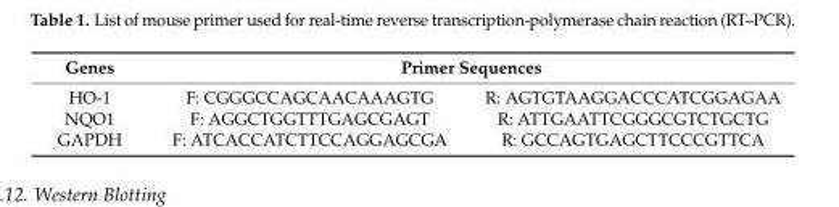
<table><thead><tr><td rowspan="2">Genes HO-1</td><td colspan="2">Primer Sequences</td></tr><tr><td>F: CGGGCCAGCAACAAAGTG</td><td>R: AGTGTAAGGACCCATCGGAGAA</td></tr></thead><tbody><tr><td>NQO1</td><td>F: AGGCTGGTTTGAGCGAGT</td><td>R: ATTGAATTCGGGCGTCTGCTG</td></tr><tr><td>GAPDH</td><td>F: ATCACCATCTTCCAGGAGCGA</td><td>R: GCCAGTGAGCTTCCCGTTCA</td></tr></tbody></table>